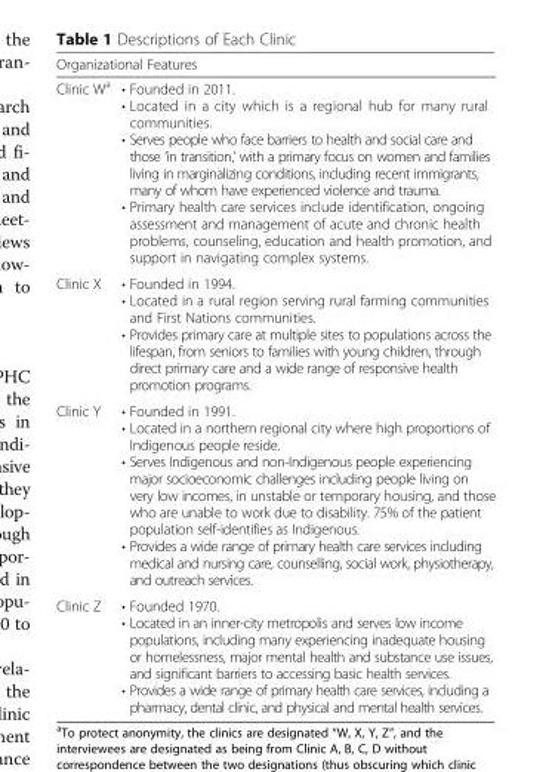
<table><thead><tr><td colspan="2">Organizational Features</td></tr><tr><td>Clinic W<sup>a</sup></td><td>• Founded in 2011. • Located in a city which is a regional hub for many rural communities. • Serves people who face barriers to health and social care and those ‘in transition,’ with a primary focus on women and families living in marginalizing conditions, including recent immigrants, many of whom have experienced violence and trauma. • Primary health care services include identification, ongoing assessment and management of acute and chronic health problems, counseling, education and health promotion, and support in navigating complex systems.</td></tr></thead><tbody><tr><td>Clinic X</td><td>• Founded in 1994. • Located in a rural region serving rural farming communities and First Nations communities. • Provides primary care at multiple sites to populations across the lifespan, from seniors to families with young children, through direct primary care and a wide range of responsive health promotion programs.</td></tr><tr><td>Clinic Y</td><td>• Founded in 1991. • Located in a northern regional city where high proportions of Indigenous people reside. • Serves Indigenous and non-Indigenous people experiencing major socioeconomic challenges including people living on very low incomes, in unstable or temporary housing, and those who are unable to work due to disability. 75% of the patient population self-identifies as Indigenous. • Provides a wide range of primary health care services including medical and nursing care, counselling, social work, physiotherapy, and outreach services.</td></tr><tr><td>Clinic Z</td><td>• Founded 1970. • Located in an inner-city metropolis and serves low income populations, including many experiencing inadequate housing or homelessness, major mental health and substance use issues, and significant barriers to accessing basic health services. • Provides a wide range of primary health care services, including a pharmacy, dental clinic, and physical and mental health services.</td></tr></tbody></table>